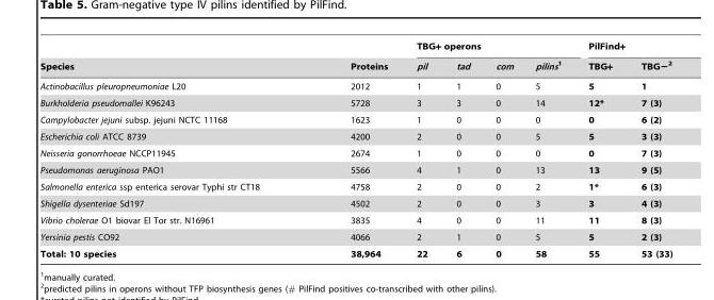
<table><thead><tr><td rowspan="2">Species</td><td rowspan="2">Proteins</td><td colspan="4">TBG+ operons</td><td colspan="2">PilFind+</td></tr><tr><td>pil</td><td>tad</td><td>com</td><td>pilins1</td><td>TBG+</td><td>TBG−2</td></tr></thead><tbody><tr><td>Actinobacillus pleuropneumoniae L20</td><td>2012</td><td>1</td><td>1</td><td>0</td><td>5</td><td>5</td><td>1</td></tr><tr><td>Burkholderia pseudomallei K96243</td><td>5728</td><td>3</td><td>3</td><td>0</td><td>14</td><td>12*</td><td>7 (3)</td></tr><tr><td>Campylobacter jejuni subsp. jejuni NCTC 11168</td><td>1623</td><td>1</td><td>0</td><td>0</td><td>0</td><td>0</td><td>6 (2)</td></tr><tr><td>Escherichia coli ATCC 8739</td><td>4200</td><td>2</td><td>0</td><td>0</td><td>5</td><td>5</td><td>3 (3)</td></tr><tr><td>Neisseria gonorrhoeae NCCP11945</td><td>2674</td><td>1</td><td>0</td><td>0</td><td>0</td><td>0</td><td>7 (3)</td></tr><tr><td>Pseudomonas aeruginosa PAO1</td><td>5566</td><td>4</td><td>1</td><td>0</td><td>13</td><td>13</td><td>9 (5)</td></tr><tr><td>Salmonella enterica ssp enterica serovar Typhi str CT18</td><td>4758</td><td>2</td><td>0</td><td>0</td><td>2</td><td>1*</td><td>6 (3)</td></tr><tr><td>Shigella dysenteriae Sd197</td><td>4502</td><td>2</td><td>0</td><td>0</td><td>3</td><td>3</td><td>4 (3)</td></tr><tr><td>Vibrio cholerae O1 biovar El Tor str. N16961</td><td>3835</td><td>4</td><td>0</td><td>0</td><td>11</td><td>11</td><td>8 (3)</td></tr><tr><td>Yersinia pestis CO92</td><td>4066</td><td>2</td><td>1</td><td>0</td><td>5</td><td>5</td><td>2 (3)</td></tr><tr><td>Total: 10 species</td><td>38,964</td><td>22</td><td>6</td><td>0</td><td>58</td><td>55</td><td>53 (33)</td></tr></tbody></table>